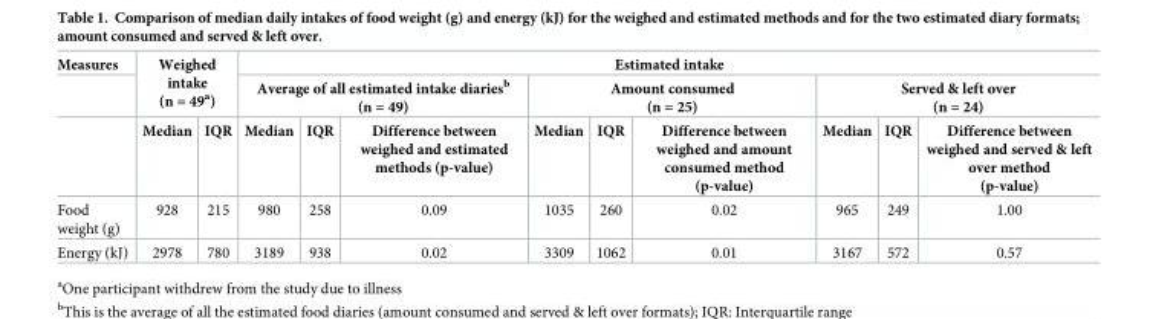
<table><thead><tr><td rowspan="3">Measures</td><td rowspan="2" colspan="2">Weighed intake (n = 49<sup>a</sup>)</td><td colspan="9">Estimated intake</td></tr><tr><td colspan="3">Average of all estimated intake diaries<sup>b</sup> (n = 49)</td><td colspan="3">Amount consumed (n = 25)</td><td colspan="3">Served &amp; left over (n = 24)</td></tr><tr><td>Median</td><td>IQR</td><td>Median</td><td>IQR</td><td>Difference between weighed and estimated methods (p-value)</td><td>Median</td><td>IQR</td><td>Difference between weighed and amount consumed method (p-value)</td><td>Median</td><td>IQR</td><td>Difference between weighed and served &amp; left over method (p-value)</td></tr></thead><tbody><tr><td>Food weight (g)</td><td>928</td><td>215</td><td>980</td><td>258</td><td>0.09</td><td>1035</td><td>260</td><td>0.02</td><td>965</td><td>249</td><td>1.00</td></tr><tr><td>Energy (kJ)</td><td>2978</td><td>780</td><td>3189</td><td>938</td><td>0.02</td><td>3309</td><td>1062</td><td>0.01</td><td>3167</td><td>572</td><td>0.57</td></tr></tbody></table>